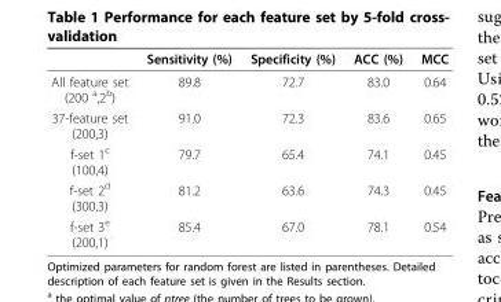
<table><thead><tr><td></td><td>Sensitivity (%)</td><td>Specificity (%)</td><td>ACC (%)</td><td>MCC</td></tr></thead><tbody><tr><td>All feature set (200 <sup>a</sup>,2<sup>b</sup>)</td><td>89.8</td><td>72.7</td><td>83.0</td><td>0.64</td></tr><tr><td>37-feature set (200,3)</td><td>91.0</td><td>72.3</td><td>83.6</td><td>0.65</td></tr><tr><td>f-set 1<sup>c</sup> (100,4)</td><td>79.7</td><td>65.4</td><td>74.1</td><td>0.45</td></tr><tr><td>f-set 2<sup>d</sup> (300,3)</td><td>81.2</td><td>63.6</td><td>74.3</td><td>0.45</td></tr><tr><td>f-set 3<sup>e</sup> (200,1)</td><td>85.4</td><td>67.0</td><td>78.1</td><td>0.54</td></tr></tbody></table>